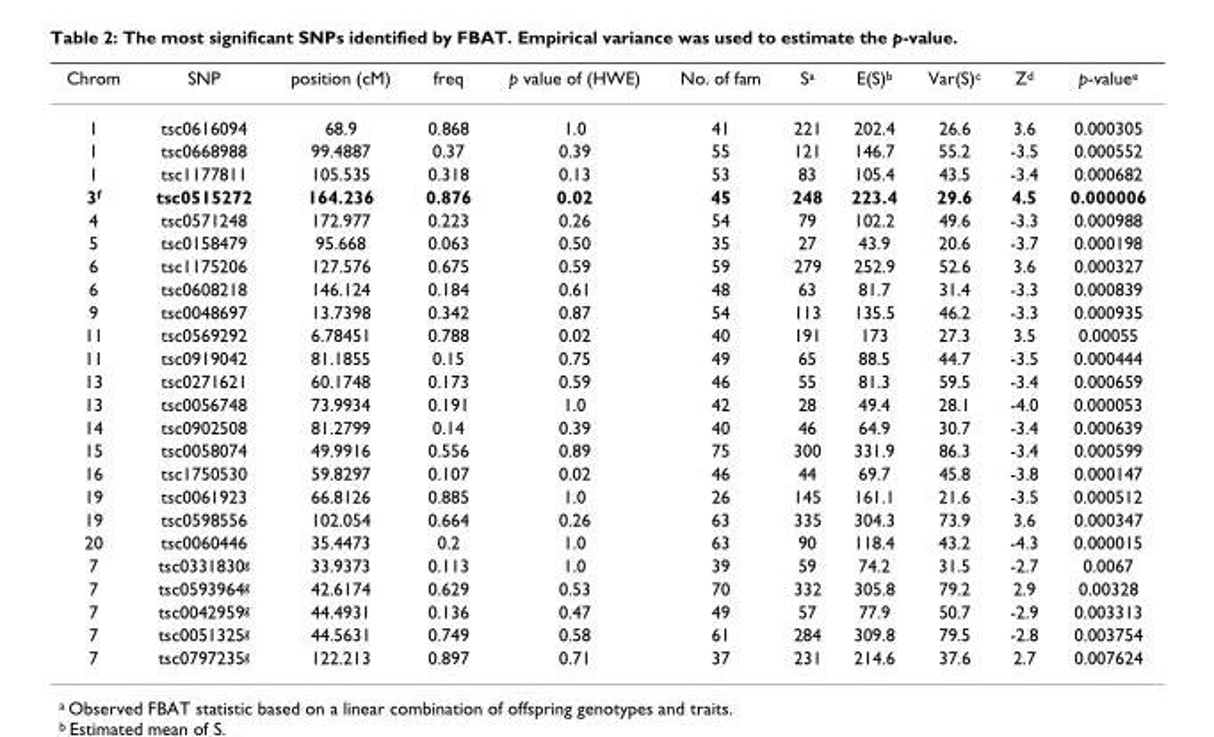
<table><thead><tr><td>Chrom</td><td>SNP</td><td>position (cM)</td><td>freq</td><td>p value of (HWE)</td><td>No. of fam</td><td>Sa</td><td>E(S)b</td><td>Var(S)c</td><td>Zd</td><td>p-valuee</td></tr></thead><tbody><tr><td>1</td><td>tsc0616094</td><td>68.9</td><td>0.868</td><td>1.0</td><td>41</td><td>221</td><td>202.4</td><td>26.6</td><td>3.6</td><td>0.000305</td></tr><tr><td>1</td><td>tsc0668988</td><td>99.4887</td><td>0.37</td><td>0.39</td><td>55</td><td>121</td><td>146.7</td><td>55.2</td><td>-3.5</td><td>0.000552</td></tr><tr><td>1</td><td>tsc1177811</td><td>105.535</td><td>0.318</td><td>0.13</td><td>53</td><td>83</td><td>105.4</td><td>43.5</td><td>-3.4</td><td>0.000682</td></tr><tr><td>3f</td><td>tsc0515272</td><td>164.236</td><td>0.876</td><td>0.02</td><td>45</td><td>248</td><td>223.4</td><td>29.6</td><td>4.5</td><td>0.000006</td></tr><tr><td>4</td><td>tsc0571248</td><td>172.977</td><td>0.223</td><td>0.26</td><td>54</td><td>79</td><td>102.2</td><td>49.6</td><td>-3.3</td><td>0.000988</td></tr><tr><td>5</td><td>tsc0158479</td><td>95.668</td><td>0.063</td><td>0.50</td><td>35</td><td>27</td><td>43.9</td><td>20.6</td><td>-3.7</td><td>0.000198</td></tr><tr><td>6</td><td>tsc1175206</td><td>127.576</td><td>0.675</td><td>0.59</td><td>59</td><td>279</td><td>252.9</td><td>52.6</td><td>3.6</td><td>0.000327</td></tr><tr><td>6</td><td>tsc0608218</td><td>146.124</td><td>0.184</td><td>0.61</td><td>48</td><td>63</td><td>81.7</td><td>31.4</td><td>-3.3</td><td>0.000839</td></tr><tr><td>9</td><td>tsc0048697</td><td>13.7398</td><td>0.342</td><td>0.87</td><td>54</td><td>113</td><td>135.5</td><td>46.2</td><td>-3.3</td><td>0.000935</td></tr><tr><td>11</td><td>tsc0569292</td><td>6.78451</td><td>0.788</td><td>0.02</td><td>40</td><td>191</td><td>173</td><td>27.3</td><td>3.5</td><td>0.00055</td></tr><tr><td>11</td><td>tsc0919042</td><td>81.1855</td><td>0.15</td><td>0.75</td><td>49</td><td>65</td><td>88.5</td><td>44.7</td><td>-3.5</td><td>0.000444</td></tr><tr><td>13</td><td>tsc0271621</td><td>60.1748</td><td>0.173</td><td>0.59</td><td>46</td><td>55</td><td>81.3</td><td>59.5</td><td>-3.4</td><td>0.000659</td></tr><tr><td>13</td><td>tsc0056748</td><td>73.9934</td><td>0.191</td><td>1.0</td><td>42</td><td>28</td><td>49.4</td><td>28.1</td><td>-4.0</td><td>0.000053</td></tr><tr><td>14</td><td>tsc0902508</td><td>81.2799</td><td>0.14</td><td>0.39</td><td>40</td><td>46</td><td>64.9</td><td>30.7</td><td>-3.4</td><td>0.000639</td></tr><tr><td>15</td><td>tsc0058074</td><td>49.9916</td><td>0.556</td><td>0.89</td><td>75</td><td>300</td><td>331.9</td><td>86.3</td><td>-3.4</td><td>0.000599</td></tr><tr><td>16</td><td>tsc1750530</td><td>59.8297</td><td>0.107</td><td>0.02</td><td>46</td><td>44</td><td>69.7</td><td>45.8</td><td>-3.8</td><td>0.000147</td></tr><tr><td>19</td><td>tsc0061923</td><td>66.8126</td><td>0.885</td><td>1.0</td><td>26</td><td>145</td><td>161.1</td><td>21.6</td><td>-3.5</td><td>0.000512</td></tr><tr><td>19</td><td>tsc0598556</td><td>102.054</td><td>0.664</td><td>0.26</td><td>63</td><td>335</td><td>304.3</td><td>73.9</td><td>3.6</td><td>0.000347</td></tr><tr><td>20</td><td>tsc0060446</td><td>35.4473</td><td>0.2</td><td>1.0</td><td>63</td><td>90</td><td>118.4</td><td>43.2</td><td>-4.3</td><td>0.000015</td></tr><tr><td>7</td><td>tsc0331830g</td><td>33.9373</td><td>0.113</td><td>1.0</td><td>39</td><td>59</td><td>74.2</td><td>31.5</td><td>-2.7</td><td>0.0067</td></tr><tr><td>7</td><td>tsc0593964g</td><td>42.6174</td><td>0.629</td><td>0.53</td><td>70</td><td>332</td><td>305.8</td><td>79.2</td><td>2.9</td><td>0.00328</td></tr><tr><td>7</td><td>tsc0042959g</td><td>44.4931</td><td>0.136</td><td>0.47</td><td>49</td><td>57</td><td>77.9</td><td>50.7</td><td>-2.9</td><td>0.003313</td></tr><tr><td>7</td><td>tsc0051325g</td><td>44.5631</td><td>0.749</td><td>0.58</td><td>61</td><td>284</td><td>309.8</td><td>79.5</td><td>-2.8</td><td>0.003754</td></tr><tr><td>7</td><td>tsc0797235g</td><td>122.213</td><td>0.897</td><td>0.71</td><td>37</td><td>231</td><td>214.6</td><td>37.6</td><td>2.7</td><td>0.007624</td></tr></tbody></table>